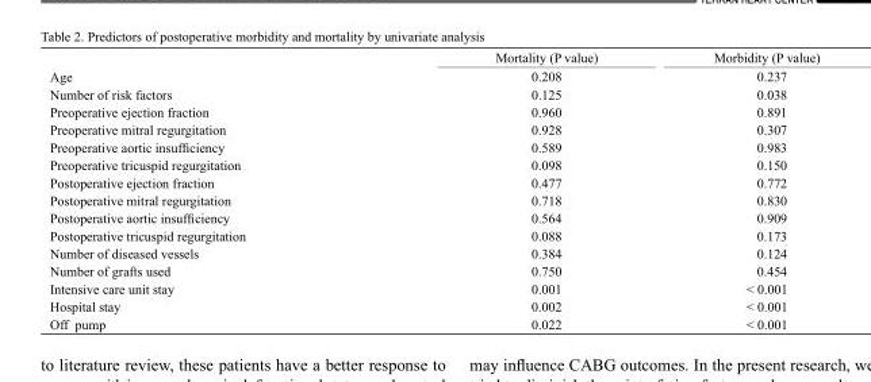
<table><thead><tr><td></td><td>Mortality (P value)</td><td>Morbidity (P value)</td></tr></thead><tbody><tr><td>Age</td><td>0.208</td><td>0.237</td></tr><tr><td>Number of risk factors</td><td>0.125</td><td>0.038</td></tr><tr><td>Preoperative ejection fraction</td><td>0.960</td><td>0.891</td></tr><tr><td>Preoperative mitral regurgitation</td><td>0.928</td><td>0.307</td></tr><tr><td>Preoperative aortic insufficiency</td><td>0.589</td><td>0.983</td></tr><tr><td>Preoperative tricuspid regurgitation</td><td>0.098</td><td>0.150</td></tr><tr><td>Postoperative ejection fraction</td><td>0.477</td><td>0.772</td></tr><tr><td>Postoperative mitral regurgitation</td><td>0.718</td><td>0.830</td></tr><tr><td>Postoperative aortic insufficiency</td><td>0.564</td><td>0.909</td></tr><tr><td>Postoperative tricuspid regurgitation</td><td>0.088</td><td>0.173</td></tr><tr><td>Number of diseased vessels</td><td>0.384</td><td>0.124</td></tr><tr><td>Number of grafts used</td><td>0.750</td><td>0.454</td></tr><tr><td>Intensive care unit stay</td><td>0.001</td><td>&lt; 0.001</td></tr><tr><td>Hospital stay</td><td>0.002</td><td>&lt; 0.001</td></tr><tr><td>Off pump</td><td>0.022</td><td>&lt; 0.001</td></tr></tbody></table>